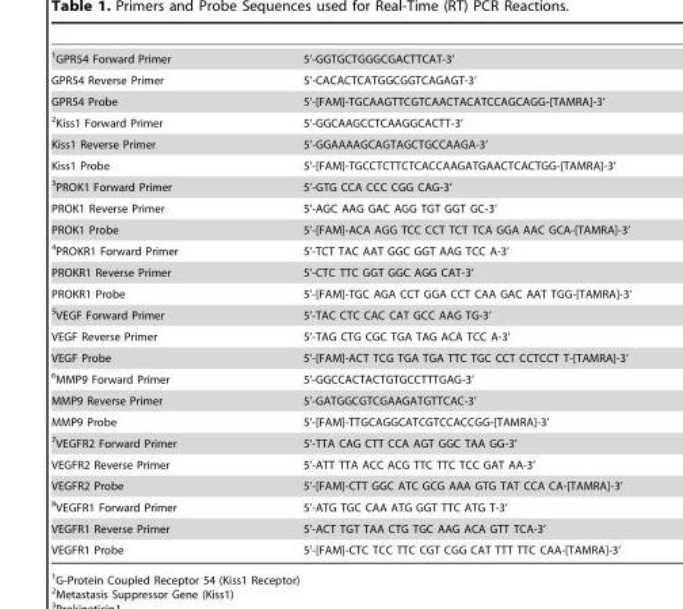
<table><tbody><tr><td>1GPR54 Forward Primer</td><td>5’-GGTGCTGGGCGACTTCAT-3’</td></tr><tr><td>GPR54 Reverse Primer</td><td>5’-CACACTCATGGCGGTCAGAGT-3’</td></tr><tr><td>GPR54 Probe</td><td>5’-[FAM]-TGCAAGTTCGTCAACTACATCCAGCAGG-[TAMRA]-3’</td></tr><tr><td>2Kiss1 Forward Primer</td><td>5’-GGCAAGCCTCAAGGCACTT-3’</td></tr><tr><td>Kiss1 Reverse Primer</td><td>5’-GGAAAAGCAGTAGCTGCCAAGA-3’</td></tr><tr><td>Kiss1 Probe</td><td>5’-[FAM]-TGCCTCTTCTCACCAAGATGAACTCACTGG-[TAMRA]-3’</td></tr><tr><td>3PROK1 Forward Primer</td><td>5’-GTG CCA CCC CGG CAG-3’</td></tr><tr><td>PROK1 Reverse Primer</td><td>5’-AGC AAG GAC AGG TGT GGT GC-3’</td></tr><tr><td>PROK1 Probe</td><td>5’-[FAM]-ACA AGG TCC CCT TCT TCA GGA AAC GCA-[TAMRA]-3’</td></tr><tr><td>4PROKR1 Forward Primer</td><td>5’-TCT TAC AAT GGC GGT AAG TCC A-3’</td></tr><tr><td>PROKR1 Reverse Primer</td><td>5’-CTC TTC GGT GGC AGG CAT-3’</td></tr><tr><td>PROKR1 Probe</td><td>5’-[FAM]-TGC AGA CCT GGA CCT CAA GAC AAT TGG-[TAMRA]-3’</td></tr><tr><td>5VEGF Forward Primer</td><td>5’-TAC CTC CAC CAT GCC AAG TG-3’</td></tr><tr><td>VEGF Reverse Primer</td><td>5’-TAG CTG CGC TGA TAG ACA TCC A-3’</td></tr><tr><td>VEGF Probe</td><td>5’-[FAM]-ACT TCG TGA TGA TTC TGC CCT CCTCCT T-[TAMRA]-3’</td></tr><tr><td>6MMP9 Forward Primer</td><td>5’-GGCCACTACTGTGCCTTTGAG-3’</td></tr><tr><td>MMP9 Reverse Primer</td><td>5’-GATGGCGTCGAAGATGTTCAC-3’</td></tr><tr><td>MMP9 Probe</td><td>5’-[FAM]-TTGCAGGCATCGTCCACCGG-[TAMRA]-3’</td></tr><tr><td>7VEGFR2 Forward Primer</td><td>5’-TTA CAG CTT CCA AGT GGC TAA GG-3’</td></tr><tr><td>VEGFR2 Reverse Primer</td><td>5’-ATT TTA ACC ACG TTC TTC TCC GAT AA-3’</td></tr><tr><td>VEGFR2 Probe</td><td>5’-[FAM]-CTT GGC ATC GCG AAA GTG TAT CCA CA-[TAMRA]-3’</td></tr><tr><td>8VEGFR1 Forward Primer</td><td>5’-ATG TGC CAA ATG GGT TTC ATG T-3’</td></tr><tr><td>VEGFR1 Reverse Primer</td><td>5’-ACT TGT TAA CTG TGC AAG ACA GTT TCA-3’</td></tr><tr><td>VEGFR1 Probe</td><td>5’-[FAM]-CTC TCC TTC CGT CGG CAT TTT TTC CAA-[TAMRA]-3’</td></tr></tbody></table>